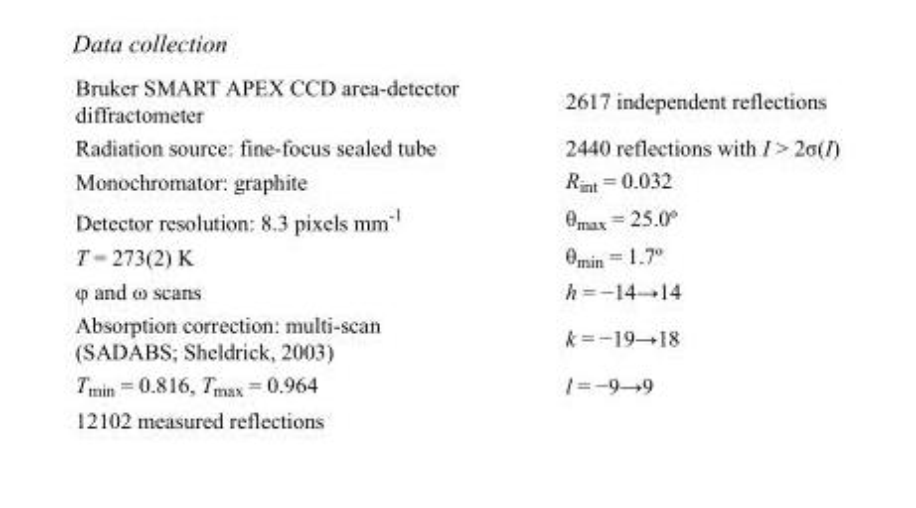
<table><tbody><tr><td>Bruker SMART APEX CCD area-detector diffractometer</td><td>2617 independent reflections</td></tr><tr><td>Radiation source: fine-focus sealed tube</td><td>2440 reflections with I &gt; 2σ(I)</td></tr><tr><td>Monochromator: graphite</td><td>R<sub>int</sub> = 0.032</td></tr><tr><td>Detector resolution: 8.3 pixels mm<sup>-1</sup></td><td>θ<sub>max</sub> = 25.0º</td></tr><tr><td>T = 273(2) K</td><td>θ<sub>min</sub> = 1.7º</td></tr><tr><td>φ and ω scans</td><td>h = −14→14</td></tr><tr><td>Absorption correction: multi-scan (SADABS; Sheldrick, 2003)</td><td>k = −19→18</td></tr><tr><td>T<sub>min</sub> = 0.816, T<sub>max</sub> = 0.964</td><td>l = −9→9</td></tr><tr><td>12102 measured reflections</td><td></td></tr></tbody></table>